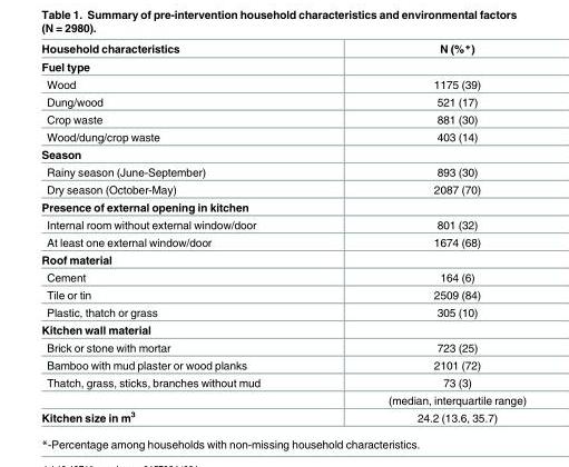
<table><thead><tr><td>Household characteristics</td><td>N (%*)</td></tr></thead><tbody><tr><td colspan="2">Fuel type</td></tr><tr><td>Wood</td><td>1175 (39)</td></tr><tr><td>Dung/wood</td><td>521 (17)</td></tr><tr><td>Crop waste</td><td>881 (30)</td></tr><tr><td>Wood/dung/crop waste</td><td>403 (14)</td></tr><tr><td colspan="2">Season</td></tr><tr><td>Rainy season (June-September)</td><td>893 (30)</td></tr><tr><td>Dry season (October-May)</td><td>2087 (70)</td></tr><tr><td colspan="2">Presence of external opening in kitchen</td></tr><tr><td>Internal room without external window/door</td><td>801 (32)</td></tr><tr><td>At least one external window/door</td><td>1674 (68)</td></tr><tr><td colspan="2">Roof material</td></tr><tr><td>Cement</td><td>164 (6)</td></tr><tr><td>Tile or tin</td><td>2509 (84)</td></tr><tr><td>Plastic, thatch or grass</td><td>305 (10)</td></tr><tr><td colspan="2">Kitchen wall material</td></tr><tr><td>Brick or stone with mortar</td><td>723 (25)</td></tr><tr><td>Bamboo with mud plaster or wood planks</td><td>2101 (72)</td></tr><tr><td rowspan="2">Thatch, grass, sticks, branches without mud</td><td>73 (3)</td></tr><tr><td>(median, interquartile range)</td></tr><tr><td>Kitchen size in m<sup>3</sup></td><td>24.2 (13.6, 35.7)</td></tr></tbody></table>